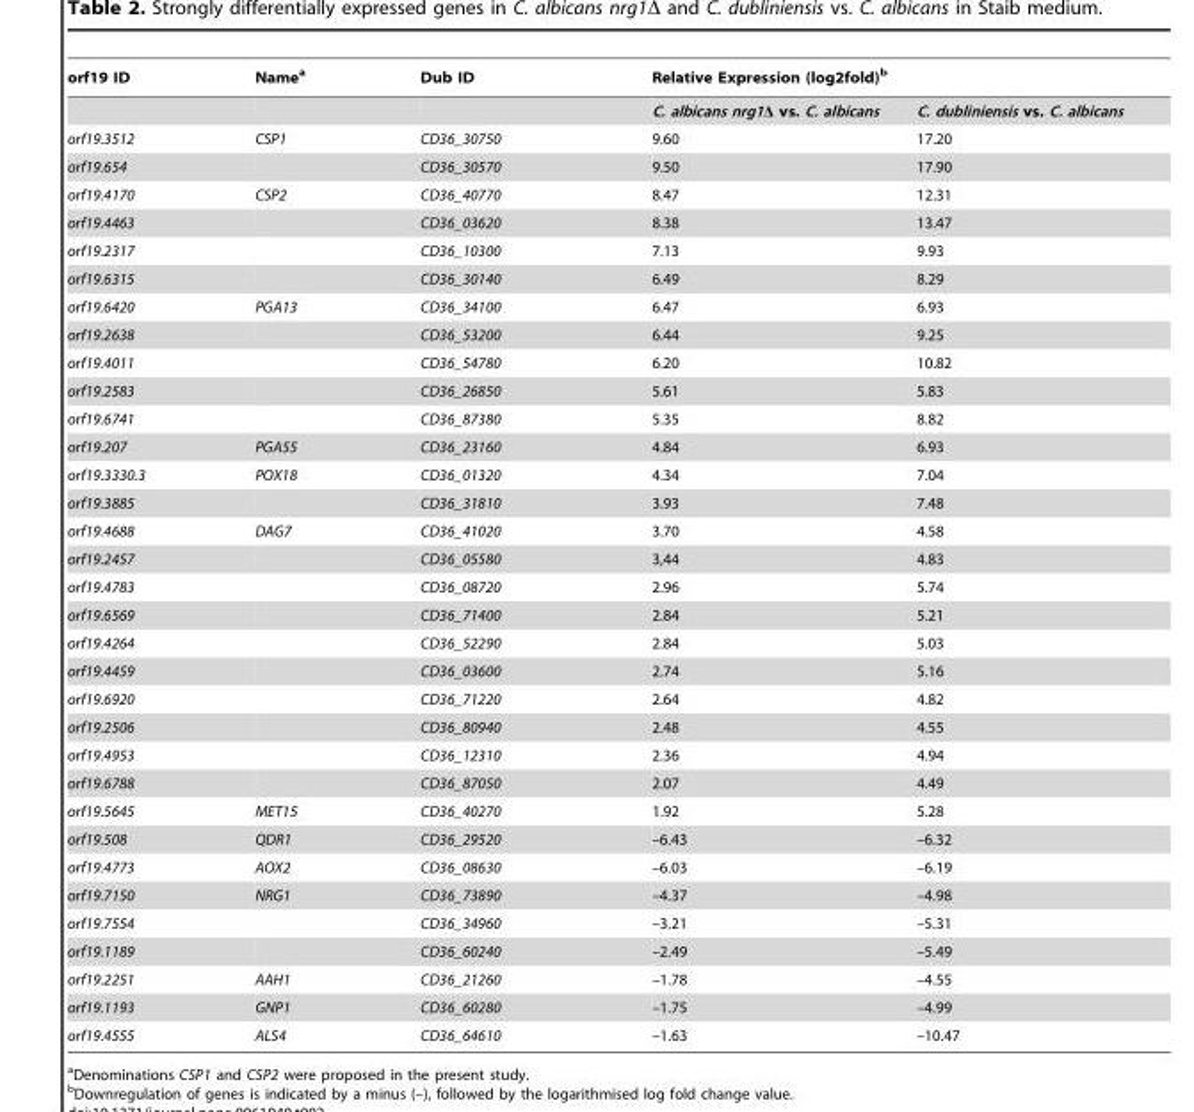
<table><thead><tr><td rowspan="2">orf19 ID</td><td rowspan="2">Name<sup>a</sup></td><td rowspan="2">Dub ID</td><td colspan="2">Relative Expression (log2fold)<sup>b</sup></td></tr><tr><td>C. albicans nrg1Δ vs. C. albicans</td><td>C. dubliniensis vs. C. albicans</td></tr></thead><tbody><tr><td>orf19.3512</td><td>CSP1</td><td>CD36_30750</td><td>9.60</td><td>17.20</td></tr><tr><td>orf19.654</td><td></td><td>CD36_30570</td><td>9.50</td><td>17.90</td></tr><tr><td>orf19.4170</td><td>CSP2</td><td>CD36_40770</td><td>8.47</td><td>12.31</td></tr><tr><td>orf19.4463</td><td></td><td>CD36_03620</td><td>8.38</td><td>13.47</td></tr><tr><td>orf19.2317</td><td></td><td>CD36_10300</td><td>7.13</td><td>9.93</td></tr><tr><td>orf19.6315</td><td></td><td>CD36_30140</td><td>6.49</td><td>8.29</td></tr><tr><td>orf19.6420</td><td>PGA13</td><td>CD36_34100</td><td>6.47</td><td>6.93</td></tr><tr><td>orf19.2638</td><td></td><td>CD36_53200</td><td>6.44</td><td>9.25</td></tr><tr><td>orf19.4011</td><td></td><td>CD36_54780</td><td>6.20</td><td>10.82</td></tr><tr><td>orf19.2583</td><td></td><td>CD36_26850</td><td>5.61</td><td>5.83</td></tr><tr><td>orf19.6741</td><td></td><td>CD36_87380</td><td>5.35</td><td>8.82</td></tr><tr><td>orf19.207</td><td>PGA55</td><td>CD36_23160</td><td>4.84</td><td>6.93</td></tr><tr><td>orf19.3330.3</td><td>POX18</td><td>CD36_01320</td><td>4.34</td><td>7.04</td></tr><tr><td>orf19.3885</td><td></td><td>CD36_31810</td><td>3.93</td><td>7.48</td></tr><tr><td>orf19.4688</td><td>DAG7</td><td>CD36_41020</td><td>3.70</td><td>4.58</td></tr><tr><td>orf19.2457</td><td></td><td>CD36_05580</td><td>3,44</td><td>4.83</td></tr><tr><td>orf19.4783</td><td></td><td>CD36_08720</td><td>2.96</td><td>5.74</td></tr><tr><td>orf19.6569</td><td></td><td>CD36_71400</td><td>2.84</td><td>5.21</td></tr><tr><td>orf19.4264</td><td></td><td>CD36_52290</td><td>2.84</td><td>5.03</td></tr><tr><td>orf19.4459</td><td></td><td>CD36_03600</td><td>2.74</td><td>5.16</td></tr><tr><td>orf19.6920</td><td></td><td>CD36_71220</td><td>2.64</td><td>4.82</td></tr><tr><td>orf19.2506</td><td></td><td>CD36_80940</td><td>2.48</td><td>4.55</td></tr><tr><td>orf19.4953</td><td></td><td>CD36_12310</td><td>2.36</td><td>4.94</td></tr><tr><td>orf19.6788</td><td></td><td>CD36_87050</td><td>2.07</td><td>4.49</td></tr><tr><td>orf19.5645</td><td>MET15</td><td>CD36_40270</td><td>1.92</td><td>5.28</td></tr><tr><td>orf19.508</td><td>QDR1</td><td>CD36_29520</td><td>–6.43</td><td>–6.32</td></tr><tr><td>orf19.4773</td><td>AOX2</td><td>CD36_08630</td><td>–6.03</td><td>–6.19</td></tr><tr><td>orf19.7150</td><td>NRG1</td><td>CD36_73890</td><td>–4.37</td><td>–4.98</td></tr><tr><td>orf19.7554</td><td></td><td>CD36_34960</td><td>–3.21</td><td>–5.31</td></tr><tr><td>orf19.1189</td><td></td><td>CD36_60240</td><td>–2.49</td><td>–5.49</td></tr><tr><td>orf19.2251</td><td>AAH1</td><td>CD36_21260</td><td>–1.78</td><td>–4.55</td></tr><tr><td>orf19.1193</td><td>GNP1</td><td>CD36_60280</td><td>–1.75</td><td>–4.99</td></tr><tr><td>orf19.4555</td><td>ALS4</td><td>CD36_64610</td><td>–1.63</td><td>–10.47</td></tr></tbody></table>